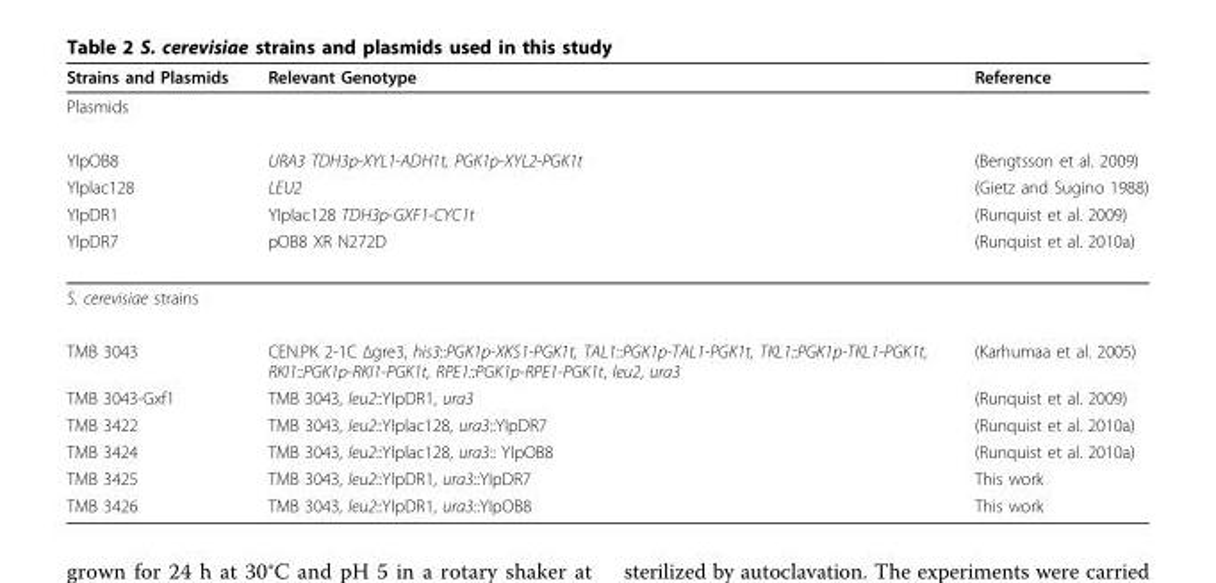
<table><thead><tr><td>Strains and Plasmids</td><td>Relevant Genotype</td><td>Reference</td></tr></thead><tbody><tr><td colspan="3">Plasmids</td></tr><tr><td>YIpOB8</td><td>URA3 TDH3p-XYL1-ADH1t, PGK1p-XYL2-PGK1t</td><td>(Bengtsson et al. 2009)</td></tr><tr><td>YIplac128</td><td>LEU2</td><td>(Gietz and Sugino 1988)</td></tr><tr><td>YIpDR1</td><td>YIplac128 TDH3p-GXF1-CYC1t</td><td>(Runquist et al. 2009)</td></tr><tr><td>YIpDR7</td><td>pOB8 XR N272D</td><td>(Runquist et al. 2010a)</td></tr><tr><td colspan="3">S. cerevisiae strains</td></tr><tr><td>TMB 3043</td><td>CEN.PK 2-1C Δgre3, his3::PGK1p-XKS1-PGK1t, TAL1::PGK1p-TAL1-PGK1t, TKL1::PGK1p-TKL1-PGK1t, RKI1::PGK1p-RKI1-PGK1t, RPE1::PGK1p-RPE1-PGK1t, leu2, ura3</td><td>(Karhumaa et al. 2005)</td></tr><tr><td>TMB 3043-Gxf1</td><td>TMB 3043, leu2::YIpDR1, ura3</td><td>(Runquist et al. 2009)</td></tr><tr><td>TMB 3422</td><td>TMB 3043, leu2::YIplac128, ura3::YIpDR7</td><td>(Runquist et al. 2010a)</td></tr><tr><td>TMB 3424</td><td>TMB 3043, leu2::YIplac128, ura3:: YIpOB8</td><td>(Runquist et al. 2010a)</td></tr><tr><td>TMB 3425</td><td>TMB 3043, leu2::YIpDR1, ura3::YIpDR7</td><td>This work</td></tr><tr><td>TMB 3426</td><td>TMB 3043, leu2::YIpDR1, ura3::YIpOB8</td><td>This work</td></tr></tbody></table>